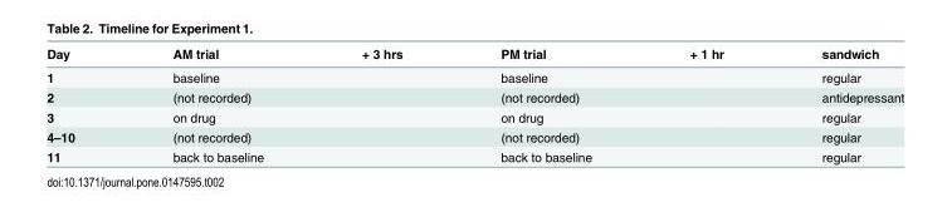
<table><thead><tr><td>Day</td><td>AM trial</td><td>+ 3 hrs</td><td>PM trial</td><td>+ 1 hr</td><td>sandwich</td></tr></thead><tbody><tr><td>1</td><td>baseline</td><td></td><td>baseline</td><td></td><td>regular</td></tr><tr><td>2</td><td>(not recorded)</td><td></td><td>(not recorded)</td><td></td><td>antidepressant</td></tr><tr><td>3</td><td>on drug</td><td></td><td>on drug</td><td></td><td>regular</td></tr><tr><td>4–10</td><td>(not recorded)</td><td></td><td>(not recorded)</td><td></td><td>regular</td></tr><tr><td>11</td><td>back to baseline</td><td></td><td>back to baseline</td><td></td><td>regular</td></tr></tbody></table>